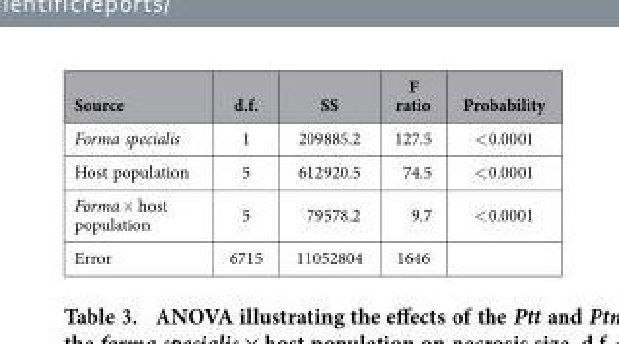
<table><thead><tr><td>Source</td><td>d.f.</td><td>SS</td><td>F ratio</td><td>Probability</td></tr></thead><tbody><tr><td>Forma specialis</td><td>1</td><td>209885.2</td><td>127.5</td><td>&lt; 0.0001</td></tr><tr><td>Host population</td><td>5</td><td>612920.5</td><td>74.5</td><td>&lt; 0.0001</td></tr><tr><td>Forma × host population</td><td>5</td><td>79578.2</td><td>9.7</td><td>&lt; 0.0001</td></tr><tr><td>Error</td><td>6715</td><td>11052804</td><td>1646</td><td></td></tr></tbody></table>